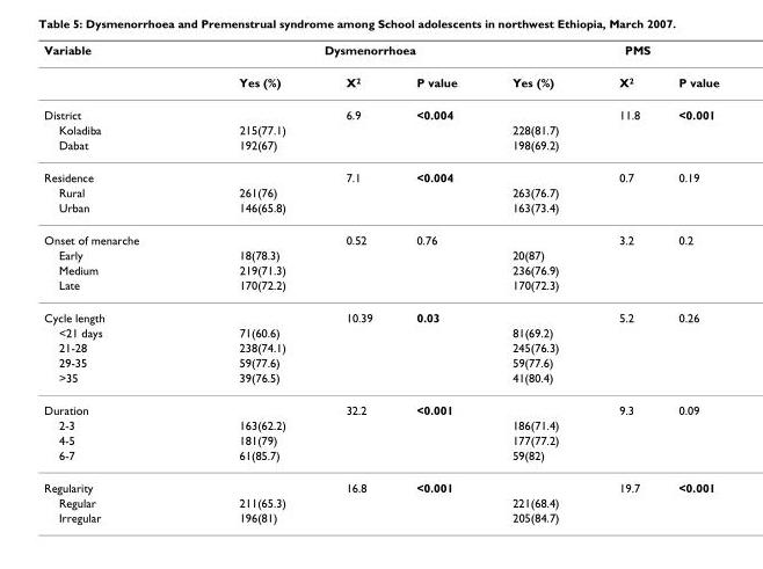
<table><thead><tr><td rowspan="2">Variable</td><td colspan="3">Dysmenorrhoea</td><td colspan="3">PMS</td></tr><tr><td>Yes (%)</td><td>X<sup>2</sup></td><td>P value</td><td>Yes (%)</td><td>X<sup>2</sup></td><td>P value</td></tr></thead><tbody><tr><td>District</td><td></td><td>6.9</td><td>&lt;0.004</td><td></td><td>11.8</td><td>&lt;0.001</td></tr><tr><td>Koladiba</td><td>215(77.1)</td><td></td><td></td><td>228(81.7)</td><td></td><td></td></tr><tr><td>Dabat</td><td>192(67)</td><td></td><td></td><td>198(69.2)</td><td></td><td></td></tr><tr><td>Residence</td><td></td><td>7.1</td><td>&lt;0.004</td><td></td><td>0.7</td><td>0.19</td></tr><tr><td>Rural</td><td>261(76)</td><td></td><td></td><td>263(76.7)</td><td></td><td></td></tr><tr><td>Urban</td><td>146(65.8)</td><td></td><td></td><td>163(73.4)</td><td></td><td></td></tr><tr><td>Onset of menarche</td><td></td><td>0.52</td><td>0.76</td><td></td><td>3.2</td><td>0.2</td></tr><tr><td>Early</td><td>18(78.3)</td><td></td><td></td><td>20(87)</td><td></td><td></td></tr><tr><td>Medium</td><td>219(71.3)</td><td></td><td></td><td>236(76.9)</td><td></td><td></td></tr><tr><td>Late</td><td>170(72.2)</td><td></td><td></td><td>170(72.3)</td><td></td><td></td></tr><tr><td>Cycle length</td><td></td><td>10.39</td><td>0.03</td><td></td><td>5.2</td><td>0.26</td></tr><tr><td>&lt;21 days</td><td>71(60.6)</td><td></td><td></td><td>81(69.2)</td><td></td><td></td></tr><tr><td>21-28</td><td>238(74.1)</td><td></td><td></td><td>245(76.3)</td><td></td><td></td></tr><tr><td>29-35</td><td>59(77.6)</td><td></td><td></td><td>59(77.6)</td><td></td><td></td></tr><tr><td>&gt;35</td><td>39(76.5)</td><td></td><td></td><td>41(80.4)</td><td></td><td></td></tr><tr><td>Duration</td><td></td><td>32.2</td><td>&lt;0.001</td><td></td><td>9.3</td><td>0.09</td></tr><tr><td>2-3</td><td>163(62.2)</td><td></td><td></td><td>186(71.4)</td><td></td><td></td></tr><tr><td>4-5</td><td>181(79)</td><td></td><td></td><td>177(77.2)</td><td></td><td></td></tr><tr><td>6-7</td><td>61(85.7)</td><td></td><td></td><td>59(82)</td><td></td><td></td></tr><tr><td>Regularity</td><td></td><td>16.8</td><td>&lt;0.001</td><td></td><td>19.7</td><td>&lt;0.001</td></tr><tr><td>Regular</td><td>211(65.3)</td><td></td><td></td><td>221(68.4)</td><td></td><td></td></tr><tr><td>Irregular</td><td>196(81)</td><td></td><td></td><td>205(84.7)</td><td></td><td></td></tr></tbody></table>